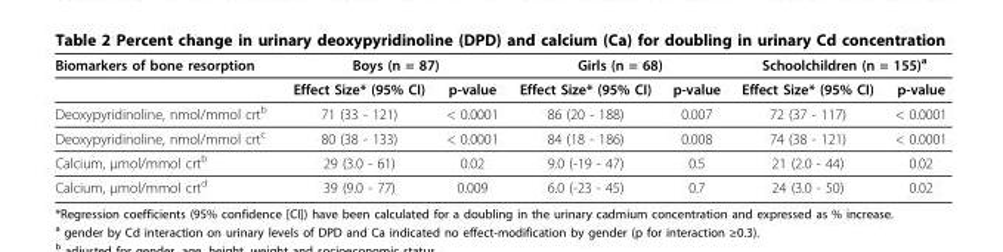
<table><thead><tr><td rowspan="2">Biomarkers of bone resorption</td><td colspan="2">Boys (n = 87)</td><td colspan="2">Girls (n = 68)</td><td colspan="2">Schoolchildren (n = 155)<sup>a</sup></td></tr><tr><td>Effect Size* (95% CI)</td><td>p-value</td><td>Effect Size* (95% CI)</td><td>p-value</td><td>Effect Size* (95% CI)</td><td>p-value</td></tr></thead><tbody><tr><td>Deoxypyridinoline, nmol/mmol crt<sup>b</sup></td><td>71 (33 - 121)</td><td>&lt; 0.0001</td><td>86 (20 - 188)</td><td>0.007</td><td>72 (37 - 117)</td><td>&lt; 0.0001</td></tr><tr><td>Deoxypyridinoline, nmol/mmol crt<sup>c</sup></td><td>80 (38 - 133)</td><td>&lt; 0.0001</td><td>84 (18 - 186)</td><td>0.008</td><td>74 (38 - 121)</td><td>&lt; 0.0001</td></tr><tr><td>Calcium, μmol/mmol crt<sup>b</sup></td><td>29 (3.0 - 61)</td><td>0.02</td><td>9.0 (-19 - 47)</td><td>0.5</td><td>21 (2.0 - 44)</td><td>0.02</td></tr><tr><td>Calcium, μmol/mmol crt<sup>d</sup></td><td>39 (9.0 - 77)</td><td>0.009</td><td>6.0 (-23 - 45)</td><td>0.7</td><td>24 (3.0 - 50)</td><td>0.02</td></tr></tbody></table>